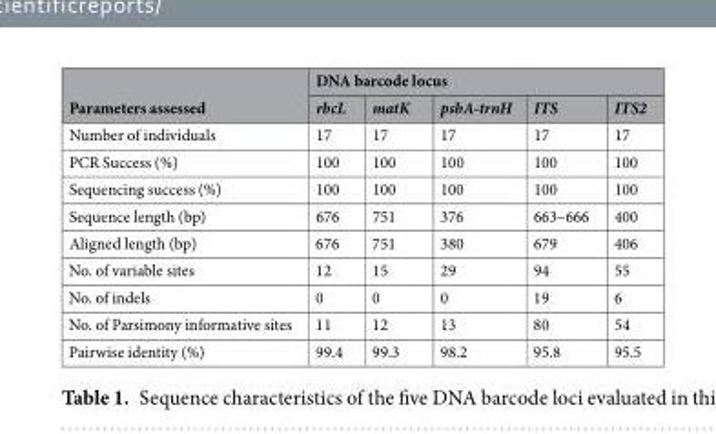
<table><thead><tr><td rowspan="2">Parameters assessed</td><td colspan="5">DNA barcode locus</td></tr><tr><td>rbcL</td><td>matK</td><td>psbA-trnH</td><td>ITS</td><td>ITS2</td></tr></thead><tbody><tr><td>Number of individuals</td><td>17</td><td>17</td><td>17</td><td>17</td><td>17</td></tr><tr><td>PCR Success (%)</td><td>100</td><td>100</td><td>100</td><td>100</td><td>100</td></tr><tr><td>Sequencing success (%)</td><td>100</td><td>100</td><td>100</td><td>100</td><td>100</td></tr><tr><td>Sequence length (bp)</td><td>676</td><td>751</td><td>376</td><td>663–666</td><td>400</td></tr><tr><td>Aligned length (bp)</td><td>676</td><td>751</td><td>380</td><td>679</td><td>406</td></tr><tr><td>No. of variable sites</td><td>12</td><td>15</td><td>29</td><td>94</td><td>55</td></tr><tr><td>No. of indels</td><td>0</td><td>0</td><td>0</td><td>19</td><td>6</td></tr><tr><td>No. of Parsimony informative sites</td><td>11</td><td>12</td><td>13</td><td>80</td><td>54</td></tr><tr><td>Pairwise identity (%)</td><td>99.4</td><td>99.3</td><td>98.2</td><td>95.8</td><td>95.5</td></tr></tbody></table>